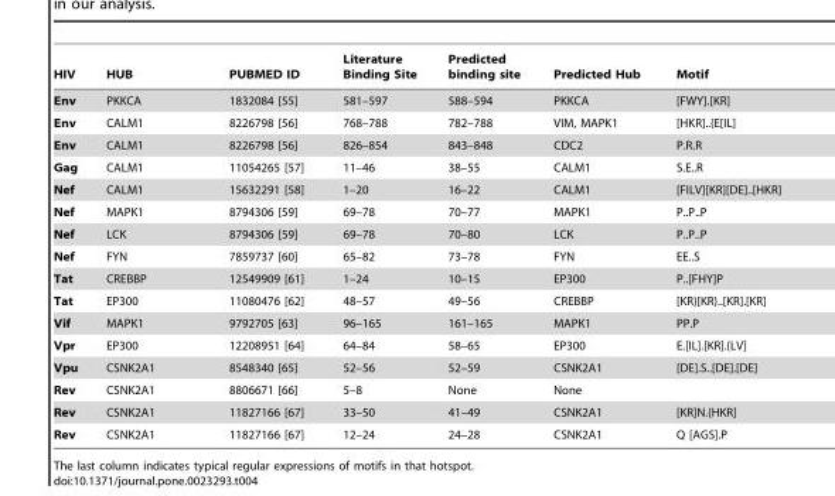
<table><thead><tr><td>HIV</td><td>HUB</td><td>PUBMED ID</td><td>Literature Binding Site</td><td>Predicted binding site</td><td>Predicted Hub</td><td>Motif</td></tr></thead><tbody><tr><td>Env</td><td>PKKCA</td><td>1832084 [55]</td><td>581–597</td><td>588–594</td><td>PKKCA</td><td>[FWY].[KR]</td></tr><tr><td>Env</td><td>CALM1</td><td>8226798 [56]</td><td>768–788</td><td>782–788</td><td>VIM, MAPK1</td><td>[HKR]..{E[IL]</td></tr><tr><td>Env</td><td>CALM1</td><td>8226798 [56]</td><td>826–854</td><td>843–848</td><td>CDC2</td><td>P.R.R</td></tr><tr><td>Gag</td><td>CALM1</td><td>11054265 [57]</td><td>11–46</td><td>38–55</td><td>CALM1</td><td>S.E..R</td></tr><tr><td>Nef</td><td>CALM1</td><td>15632291 [58]</td><td>1–20</td><td>16–22</td><td>CALM1</td><td>[FILV][KR][DE]..[HKR]</td></tr><tr><td>Nef</td><td>MAPK1</td><td>8794306 [59]</td><td>69–78</td><td>70–77</td><td>MAPK1</td><td>P..P..P</td></tr><tr><td>Nef</td><td>LCK</td><td>8794306 [59]</td><td>69–78</td><td>70–80</td><td>LCK</td><td>P..P..P</td></tr><tr><td>Nef</td><td>FYN</td><td>7859737 [60]</td><td>65–82</td><td>73–78</td><td>FYN</td><td>EE..S</td></tr><tr><td>Tat</td><td>CREBBP</td><td>12549909 [61]</td><td>1–24</td><td>10–15</td><td>EP300</td><td>P..[FHY]P</td></tr><tr><td>Tat</td><td>EP300</td><td>11080476 [62]</td><td>48–57</td><td>49–56</td><td>CREBBP</td><td>[KR}[KR}..[KR].[KR]</td></tr><tr><td>Vif</td><td>MAPK1</td><td>9792705 [63]</td><td>96–165</td><td>161–165</td><td>MAPK1</td><td>PP.P</td></tr><tr><td>Vpr</td><td>EP300</td><td>12208951 [64]</td><td>64–84</td><td>58–65</td><td>EP300</td><td>E.[IL].[KR].{LV]</td></tr><tr><td>Vpu</td><td>CSNK2A1</td><td>8548340 [65]</td><td>52–56</td><td>52–59</td><td>CSNK2A1</td><td>[DE].S..[DE].[DE]</td></tr><tr><td>Rev</td><td>CSNK2A1</td><td>8806671 [66]</td><td>5–8</td><td>None</td><td>None</td><td></td></tr><tr><td>Rev</td><td>CSNK2A1</td><td>11827166 [67]</td><td>33–50</td><td>41–49</td><td>CSNK2A1</td><td>[KR]N.{HKR]</td></tr><tr><td>Rev</td><td>CSNK2A1</td><td>11827166 [67]</td><td>12–24</td><td>24–28</td><td>CSNK2A1</td><td>Q [AGS].P</td></tr></tbody></table>